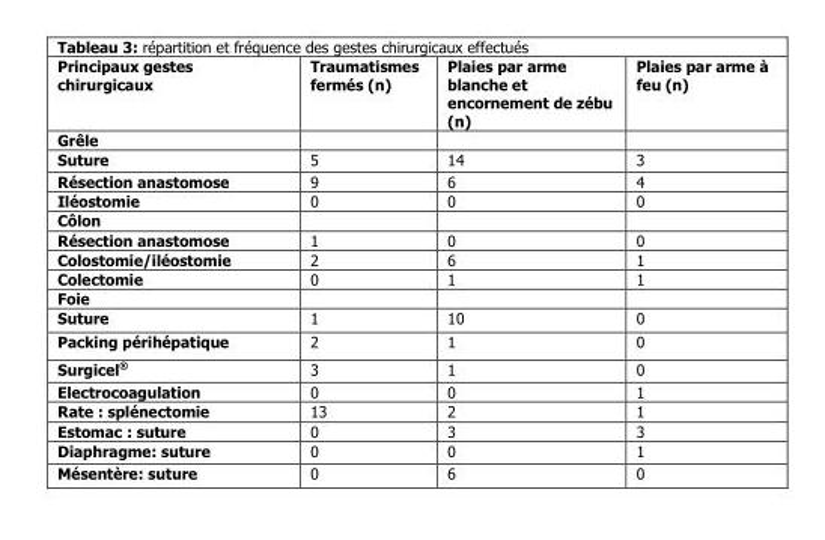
<table><thead><tr><td>Principaux gestes chirurgicaux</td><td>Traumatismes fermés (n)</td><td>Plaies par arme blanche et encornement de zébu (n)</td><td>Plaies par arme à feu (n)</td></tr></thead><tbody><tr><td colspan="4">Grêle</td></tr><tr><td>Suture</td><td>5</td><td>14</td><td>3</td></tr><tr><td>Résection anastomose</td><td>9</td><td>6</td><td>4</td></tr><tr><td>Iléostomie</td><td>0</td><td>0</td><td>0</td></tr><tr><td colspan="4">Côlon</td></tr><tr><td>Résection anastomose</td><td>1</td><td>0</td><td>0</td></tr><tr><td>Colostomie/iléostomie</td><td>2</td><td>6</td><td>1</td></tr><tr><td>Colectomie</td><td>0</td><td>1</td><td>1</td></tr><tr><td colspan="4">Foie</td></tr><tr><td>Suture</td><td>1</td><td>10</td><td>0</td></tr><tr><td>Packing périhépatique</td><td>2</td><td>1</td><td>0</td></tr><tr><td>Surgicel<sup>®</sup></td><td>3</td><td>1</td><td>0</td></tr><tr><td>Electrocoagulation</td><td>0</td><td>0</td><td>1</td></tr><tr><td>Rate : splénectomie</td><td>13</td><td>2</td><td>1</td></tr><tr><td>Estomac : suture</td><td>0</td><td>3</td><td>3</td></tr><tr><td>Diaphragme: suture</td><td>0</td><td>0</td><td>1</td></tr><tr><td>Mésentère: suture</td><td>0</td><td>6</td><td>0</td></tr></tbody></table>